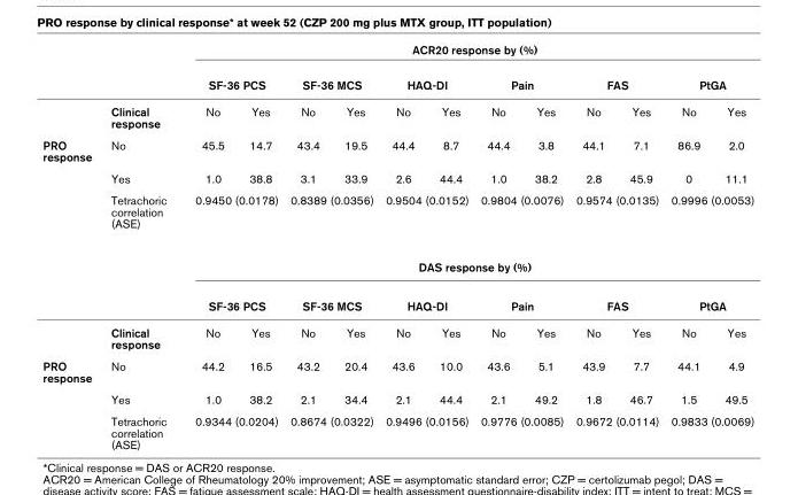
<table><thead><tr><td rowspan="3"></td><td rowspan="3">Clinical response</td><td colspan="12">ACR20 response by (%)</td></tr><tr><td colspan="2">SF-36 PCS</td><td colspan="2">SF-36 MCS</td><td colspan="2">HAQ-DI</td><td colspan="2">Pain</td><td colspan="2">FAS</td><td colspan="2">PtGA</td></tr><tr><td>No</td><td>Yes</td><td>No</td><td>Yes</td><td>No</td><td>Yes</td><td>No</td><td>Yes</td><td>No</td><td>Yes</td><td>No</td><td>Yes</td></tr></thead><tbody><tr><td rowspan="6">PRO response</td><td>No</td><td>45.5</td><td>14.7</td><td>43.4</td><td>19.5</td><td>44.4</td><td>8.7</td><td>44.4</td><td>3.8</td><td>44.1</td><td>7.1</td><td>86.9</td><td>2.0</td></tr><tr><td>Yes</td><td>1.0</td><td>38.8</td><td>3.1</td><td>33.9</td><td>2.6</td><td>44.4</td><td>1.0</td><td>38.2</td><td>2.8</td><td>45.9</td><td>0</td><td>11.1</td></tr><tr><td>Tetrachoric correlation (ASE)</td><td colspan="2">0.9450 (0.0178)</td><td colspan="2">0.8389 (0.0356)</td><td colspan="2">0.9504 (0.0152)</td><td colspan="2">0.9804 (0.0076)</td><td colspan="2">0.9574 (0.0135)</td><td colspan="2">0.9996 (0.0053)</td></tr><tr><td></td><td colspan="12">DAS response by (%)</td></tr><tr><td></td><td colspan="2">SF-36 PCS</td><td colspan="2">SF-36 MCS</td><td colspan="2">HAQ-DI</td><td colspan="2">Pain</td><td colspan="2">FAS</td><td colspan="2">PtGA</td></tr><tr><td>Clinical response</td><td>No</td><td>Yes</td><td>No</td><td>Yes</td><td>No</td><td>Yes</td><td>No</td><td>Yes</td><td>No</td><td>Yes</td><td>No</td><td>Yes</td></tr><tr><td rowspan="3">PRO response</td><td>No</td><td>44.2</td><td>16.5</td><td>43.2</td><td>20.4</td><td>43.6</td><td>10.0</td><td>43.6</td><td>5.1</td><td>43.9</td><td>7.7</td><td>44.1</td><td>4.9</td></tr><tr><td>Yes</td><td>1.0</td><td>38.2</td><td>2.1</td><td>34.4</td><td>2.1</td><td>44.4</td><td>2.1</td><td>49.2</td><td>1.8</td><td>46.7</td><td>1.5</td><td>49.5</td></tr><tr><td>Tetrachoric correlation (ASE)</td><td colspan="2">0.9344 (0.0204)</td><td colspan="2">0.8674 (0.0322)</td><td colspan="2">0.9496 (0.0156)</td><td colspan="2">0.9776 (0.0085)</td><td colspan="2">0.9672 (0.0114)</td><td colspan="2">0.9833 (0.0069)</td></tr></tbody></table>